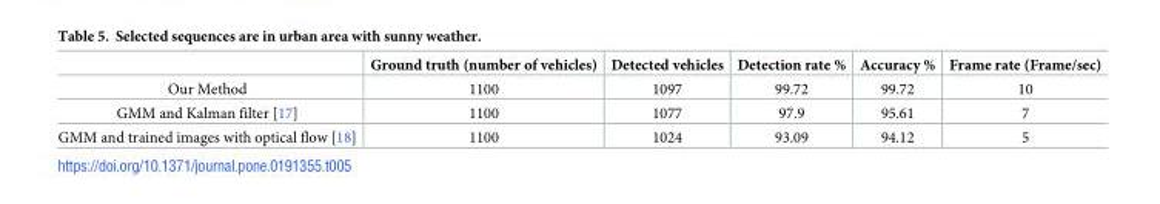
<table><thead><tr><td></td><td>Ground truth (number of vehicles)</td><td>Detected vehicles</td><td>Detection rate %</td><td>Accuracy %</td><td>Frame rate (Frame/sec)</td></tr></thead><tbody><tr><td>Our Method</td><td>1100</td><td>1097</td><td>99.72</td><td>99.72</td><td>10</td></tr><tr><td>GMM and Kalman filter [17]</td><td>1100</td><td>1077</td><td>97.9</td><td>95.61</td><td>7</td></tr><tr><td>GMM and trained images with optical flow [18]</td><td>1100</td><td>1024</td><td>93.09</td><td>94.12</td><td>5</td></tr></tbody></table>